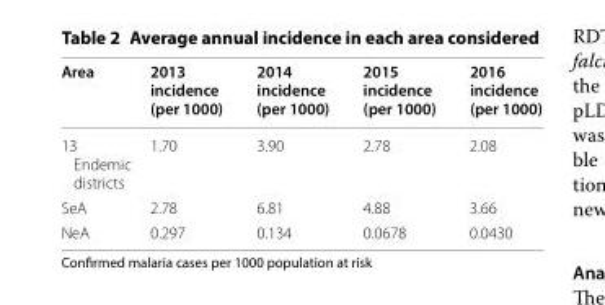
<table><thead><tr><td>Area</td><td>2013 incidence (per 1000)</td><td>2014 incidence (per 1000)</td><td>2015 incidence (per 1000)</td><td>2016 incidence (per 1000)</td></tr></thead><tbody><tr><td>13 Endemic districts</td><td>1.70</td><td>3.90</td><td>2.78</td><td>2.08</td></tr><tr><td>SeA</td><td>2.78</td><td>6.81</td><td>4.88</td><td>3.66</td></tr><tr><td>NeA</td><td>0.297</td><td>0.134</td><td>0.0678</td><td>0.0430</td></tr></tbody></table>